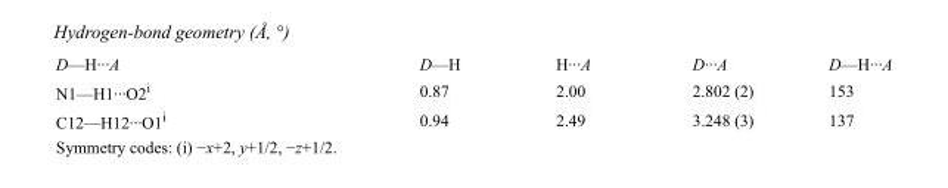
<table><tbody><tr><td>D—H···A</td><td>D—H</td><td>H···A</td><td>D···A</td><td>D—H···A</td></tr><tr><td>N1—H1···O2<sup>i</sup></td><td>0.87</td><td>2.00</td><td>2.802 (2)</td><td>153</td></tr><tr><td>C12—H12···O1<sup>i</sup></td><td>0.94</td><td>2.49</td><td>3.248 (3)</td><td>137</td></tr></tbody></table>